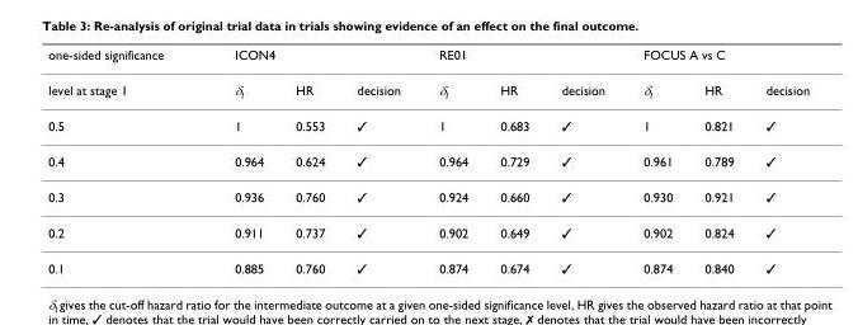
<table><thead><tr><td rowspan="2">one-sided significance level at stage 1</td><td colspan="3">ICON4</td><td colspan="3">RE01</td><td colspan="3">FOCUS A vs C</td></tr><tr><td>δ<sub>I</sub></td><td>HR</td><td>decision</td><td>δ<sub>I</sub></td><td>HR</td><td>decision</td><td>δ<sub>I</sub></td><td>HR</td><td>decision</td></tr></thead><tbody><tr><td>0.5</td><td>1</td><td>0.553</td><td>✓</td><td>1</td><td>0.683</td><td>✓</td><td>1</td><td>0.821</td><td>✓</td></tr><tr><td>0.4</td><td>0.964</td><td>0.624</td><td>✓</td><td>0.964</td><td>0.729</td><td>✓</td><td>0.961</td><td>0.789</td><td>✓</td></tr><tr><td>0.3</td><td>0.936</td><td>0.760</td><td>✓</td><td>0.924</td><td>0.660</td><td>✓</td><td>0.930</td><td>0.921</td><td>✓</td></tr><tr><td>0.2</td><td>0.911</td><td>0.737</td><td>✓</td><td>0.902</td><td>0.649</td><td>✓</td><td>0.902</td><td>0.824</td><td>✓</td></tr><tr><td>0.1</td><td>0.885</td><td>0.760</td><td>✓</td><td>0.874</td><td>0.674</td><td>✓</td><td>0.874</td><td>0.840</td><td>✓</td></tr></tbody></table>